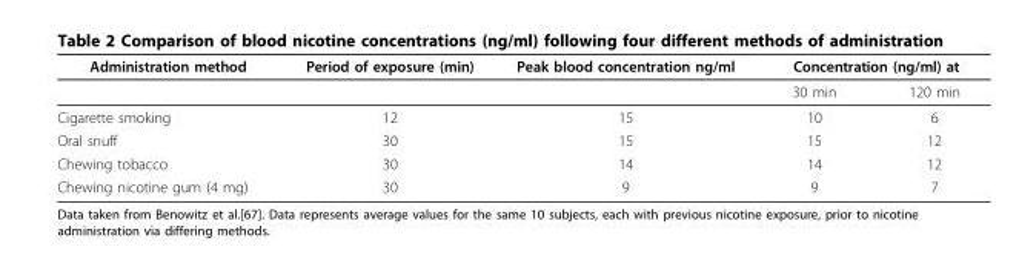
<table><thead><tr><td rowspan="2">Administration method</td><td rowspan="2">Period of exposure (min)</td><td rowspan="2">Peak blood concentration ng/ml</td><td colspan="2">Concentration (ng/ml) at</td></tr><tr><td>30 min</td><td>120 min</td></tr></thead><tbody><tr><td>Cigarette smoking</td><td>12</td><td>15</td><td>10</td><td>6</td></tr><tr><td>Oral snuff</td><td>30</td><td>15</td><td>15</td><td>12</td></tr><tr><td>Chewing tobacco</td><td>30</td><td>14</td><td>14</td><td>12</td></tr><tr><td>Chewing nicotine gum (4 mg)</td><td>30</td><td>9</td><td>9</td><td>7</td></tr></tbody></table>